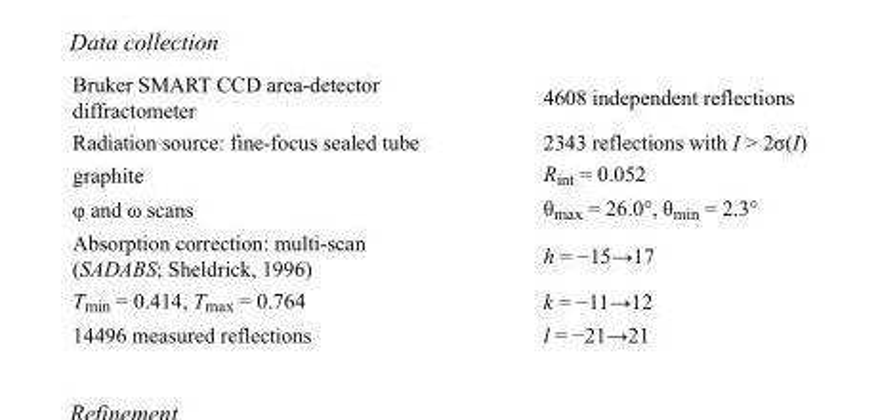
<table><tbody><tr><td>Bruker SMART CCD area-detector diffractometer</td><td>4608 independent reflections</td></tr><tr><td>Radiation source: fine-focus sealed tube</td><td>2343 reflections with I &gt; 2σ(I)</td></tr><tr><td>graphite</td><td>R<sub>int</sub> = 0.052</td></tr><tr><td>φ and ω scans</td><td>θ<sub>max</sub> = 26.0°, θ<sub>min</sub> = 2.3°</td></tr><tr><td>Absorption correction: multi-scan (SADABS; Sheldrick, 1996)</td><td>h = −15→17</td></tr><tr><td>T<sub>min</sub> = 0.414, T<sub>max</sub> = 0.764</td><td>k = −11→12</td></tr><tr><td>14496 measured reflections</td><td>l = −21→21</td></tr></tbody></table>